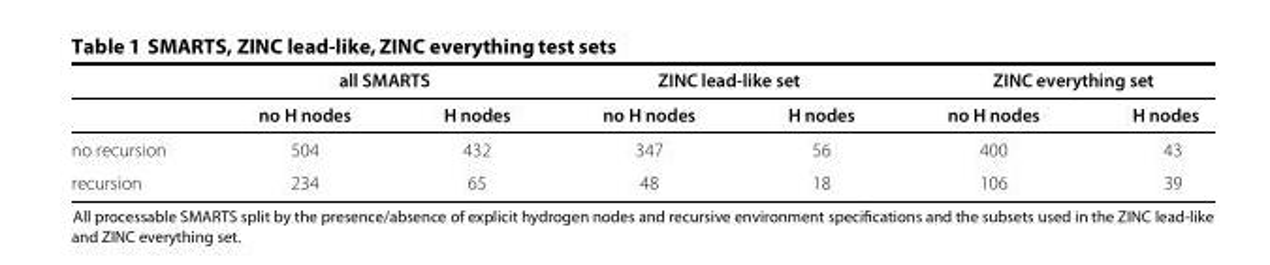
<table><thead><tr><td rowspan="2"></td><td colspan="2">all SMARTS</td><td colspan="2">ZINC lead-like set</td><td colspan="2">ZINC everything set</td></tr><tr><td>no H nodes</td><td>H nodes</td><td>no H nodes</td><td>H nodes</td><td>no H nodes</td><td>H nodes</td></tr></thead><tbody><tr><td>no recursion</td><td>504</td><td>432</td><td>347</td><td>56</td><td>400</td><td>43</td></tr><tr><td>recursion</td><td>234</td><td>65</td><td>48</td><td>18</td><td>106</td><td>39</td></tr></tbody></table>